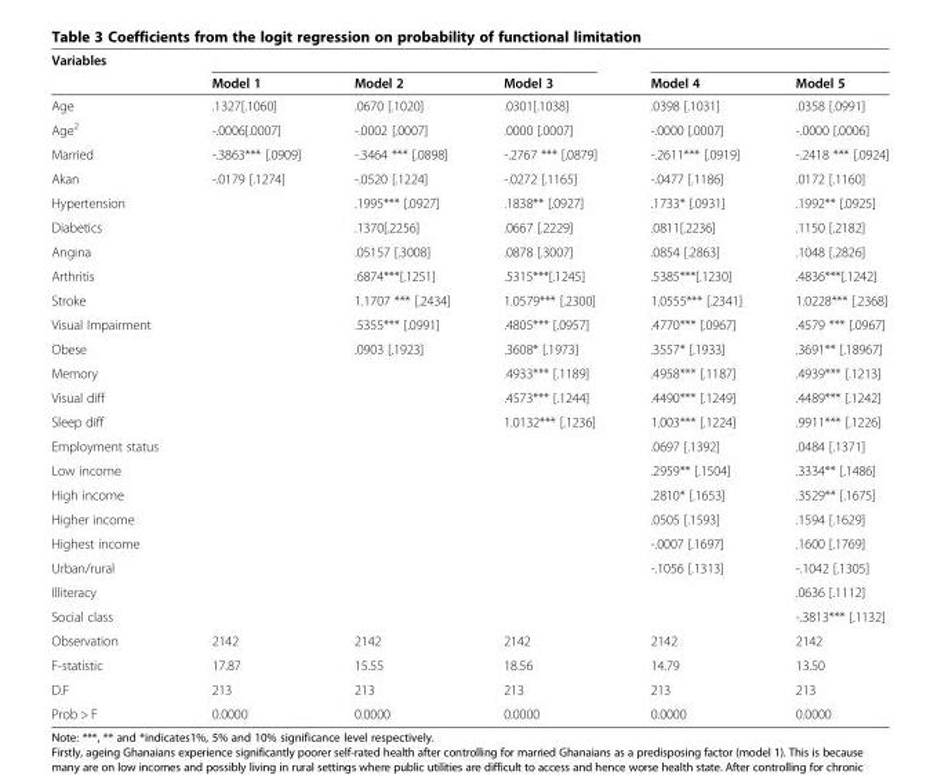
<table><thead><tr><td rowspan="2">Variables</td><td rowspan="2">Model 1</td><td rowspan="2">Model 2</td><td rowspan="2">Model 3</td><td rowspan="2">Model 4</td><td rowspan="2">Model 5</td></tr><tr></tr></thead><tbody><tr><td>Age</td><td>.1327[.1060]</td><td>.0670 [.1020]</td><td>.0301[.1038]</td><td>.0398 [.1031]</td><td>.0358 [.0991]</td></tr><tr><td>Age<sup>2</sup></td><td>-.0006[.0007]</td><td>-.0002 [.0007]</td><td>.0000 [.0007]</td><td>-.0000 [.0007]</td><td>-.0000 [.0006]</td></tr><tr><td>Married</td><td>-.3863*** [.0909]</td><td>-.3464 *** [.0898]</td><td>-.2767 *** [.0879]</td><td>-.2611*** [.0919]</td><td>-.2418 *** [.0924]</td></tr><tr><td>Akan</td><td>-.0179 [.1274]</td><td>-.0520 [.1224]</td><td>-.0272 [.1165]</td><td>-.0477 [.1186]</td><td>.0172 [.1160]</td></tr><tr><td>Hypertension</td><td></td><td>.1995*** [.0927]</td><td>.1838** [.0927]</td><td>.1733* [.0931]</td><td>.1992** [.0925]</td></tr><tr><td>Diabetics</td><td></td><td>.1370[.2256]</td><td>.0667 [.2229]</td><td>.0811[.2236]</td><td>.1150 [.2182]</td></tr><tr><td>Angina</td><td></td><td>.05157 [.3008]</td><td>.0878 [.3007]</td><td>.0854 [.2863]</td><td>.1048 [.2826]</td></tr><tr><td>Arthritis</td><td></td><td>.6874***[.1251]</td><td>.5315***[.1245]</td><td>.5385***[.1230]</td><td>.4836***[.1242]</td></tr><tr><td>Stroke</td><td></td><td>1.1707 *** [.2434]</td><td>1.0579*** [.2300]</td><td>1.0555*** [.2341]</td><td>1.0228*** [.2368]</td></tr><tr><td>Visual Impairment</td><td></td><td>.5355*** [.0991]</td><td>.4805*** [.0957]</td><td>.4770*** [.0967]</td><td>.4579 *** [.0967]</td></tr><tr><td>Obese</td><td></td><td>.0903 [.1923]</td><td>.3608* [.1973]</td><td>.3557* [.1933]</td><td>.3691** [.18967]</td></tr><tr><td>Memory</td><td></td><td></td><td>.4933*** [.1189]</td><td>.4958*** [.1187]</td><td>.4939*** [.1213]</td></tr><tr><td>Visual diff</td><td></td><td></td><td>.4573*** [.1244]</td><td>.4490*** [.1249]</td><td>.4489*** [.1242]</td></tr><tr><td>Sleep diff</td><td></td><td></td><td>1.0132*** [.1236]</td><td>1.003*** [.1224]</td><td>.9911*** [.1226]</td></tr><tr><td>Employment status</td><td></td><td></td><td></td><td>.0697 [.1392]</td><td>.0484 [.1371]</td></tr><tr><td>Low income</td><td></td><td></td><td></td><td>.2959** [.1504]</td><td>.3334** [.1486]</td></tr><tr><td>High income</td><td></td><td></td><td></td><td>.2810* [.1653]</td><td>.3529** [.1675]</td></tr><tr><td>Higher income</td><td></td><td></td><td></td><td>.0505 [.1593]</td><td>.1594 [.1629]</td></tr><tr><td>Highest income</td><td></td><td></td><td></td><td>-.0007 [.1697]</td><td>.1600 [.1769]</td></tr><tr><td>Urban/rural</td><td></td><td></td><td></td><td>-.1056 [.1313]</td><td>-.1042 [.1305]</td></tr><tr><td>Illiteracy</td><td></td><td></td><td></td><td></td><td>.0636 [.1112]</td></tr><tr><td>Social class</td><td></td><td></td><td></td><td></td><td>-.3813*** [.1132]</td></tr><tr><td>Observation</td><td>2142</td><td>2142</td><td>2142</td><td>2142</td><td>2142</td></tr><tr><td>F-statistic</td><td>17.87</td><td>15.55</td><td>18.56</td><td>14.79</td><td>13.50</td></tr><tr><td>D.F</td><td>213</td><td>213</td><td>213</td><td>213</td><td>213</td></tr><tr><td>Prob &gt; F</td><td>0.0000</td><td>0.0000</td><td>0.0000</td><td>0.0000</td><td>0.0000</td></tr></tbody></table>